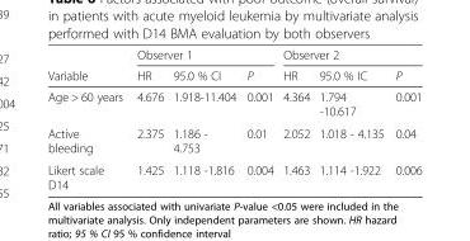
<table><thead><tr><td rowspan="2">Variable</td><td colspan="3">Observer 1</td><td colspan="3">Observer 2</td></tr><tr><td>HR</td><td>95.0 % CI</td><td>P</td><td>HR</td><td>95.0 % IC</td><td>P</td></tr></thead><tbody><tr><td>Age &gt; 60 years</td><td>4.676</td><td>1.918-11.404</td><td>0.001</td><td>4.364</td><td>1.794 -10.617</td><td>0.001</td></tr><tr><td>Active bleeding</td><td>2.375</td><td>1.186 - 4.753</td><td>0.01</td><td>2.052</td><td>1.018 - 4.135</td><td>0.04</td></tr><tr><td>Likert scale D14</td><td>1.425</td><td>1.118 -1.816</td><td>0.004</td><td>1.463</td><td>1.114 -1.922</td><td>0.006</td></tr></tbody></table>